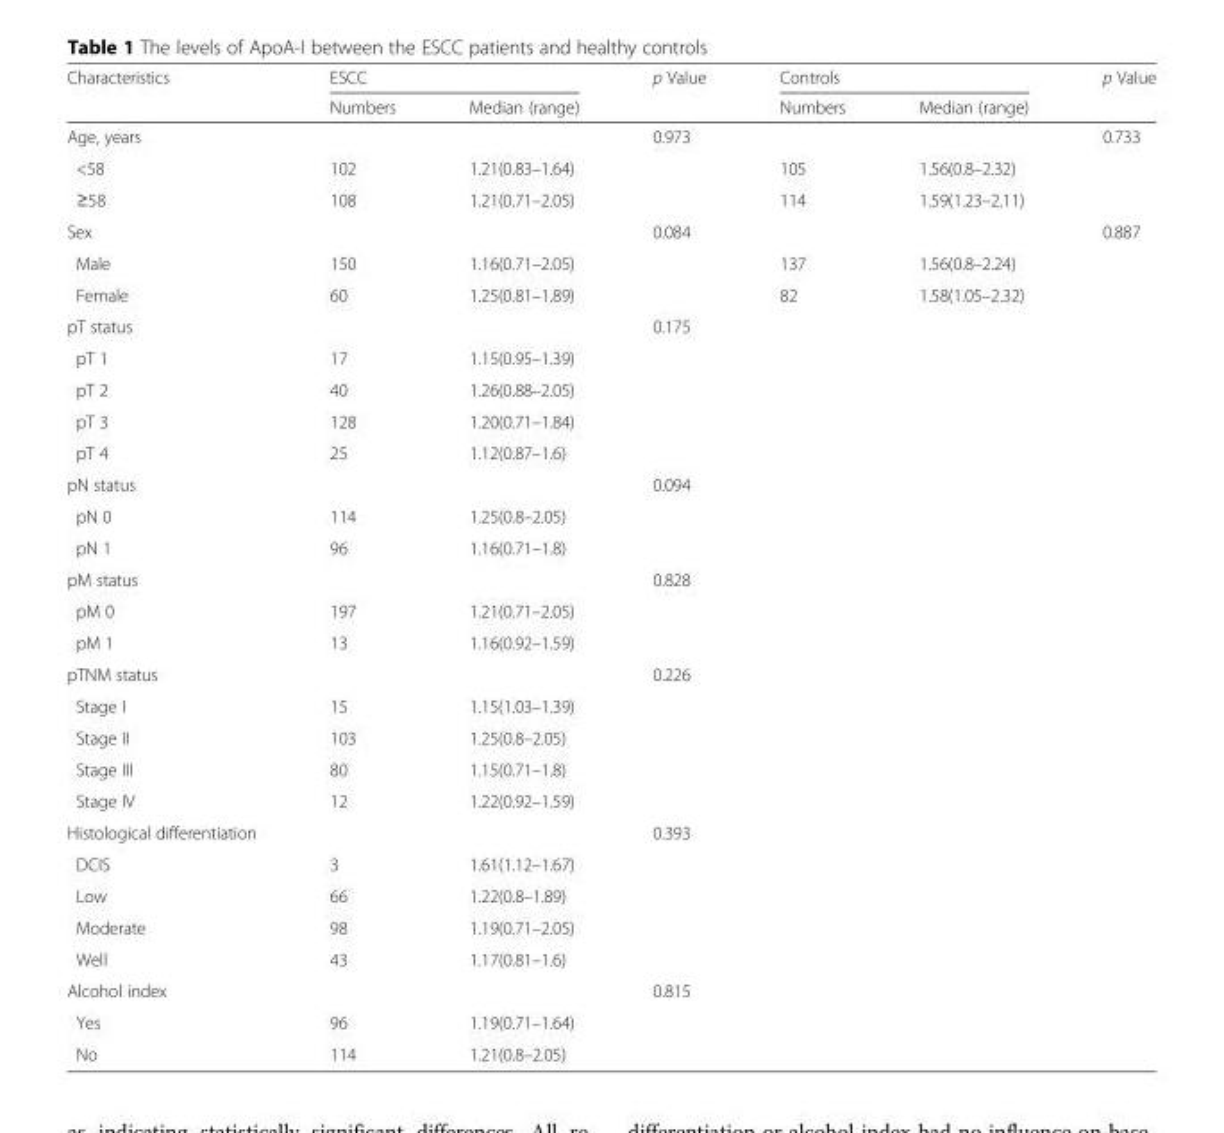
<table><thead><tr><td rowspan="2">Characteristics</td><td colspan="2">ESCC</td><td rowspan="2">p Value</td><td colspan="2">Controls</td><td rowspan="2">p Value</td></tr><tr><td>Numbers</td><td>Median (range)</td><td>Numbers</td><td>Median (range)</td></tr></thead><tbody><tr><td>Age, years</td><td></td><td></td><td>0.973</td><td></td><td></td><td>0.733</td></tr><tr><td>&lt;58</td><td>102</td><td>1.21(0.83–1.64)</td><td></td><td>105</td><td>1.56(0.8–2.32)</td><td></td></tr><tr><td>≥58</td><td>108</td><td>1.21(0.71–2.05)</td><td></td><td>114</td><td>1.59(1.23–2.11)</td><td></td></tr><tr><td>Sex</td><td></td><td></td><td>0.084</td><td></td><td></td><td>0.887</td></tr><tr><td>Male</td><td>150</td><td>1.16(0.71–2.05)</td><td></td><td>137</td><td>1.56(0.8–2.24)</td><td></td></tr><tr><td>Female</td><td>60</td><td>1.25(0.81–1.89)</td><td></td><td>82</td><td>1.58(1.05–2.32)</td><td></td></tr><tr><td>pT status</td><td></td><td></td><td>0.175</td><td></td><td></td><td></td></tr><tr><td>pT 1</td><td>17</td><td>1.15(0.95–1.39)</td><td></td><td></td><td></td><td></td></tr><tr><td>pT 2</td><td>40</td><td>1.26(0.88–2.05)</td><td></td><td></td><td></td><td></td></tr><tr><td>pT 3</td><td>128</td><td>1.20(0.71–1.84)</td><td></td><td></td><td></td><td></td></tr><tr><td>pT 4</td><td>25</td><td>1.12(0.87–1.6)</td><td></td><td></td><td></td><td></td></tr><tr><td>pN status</td><td></td><td></td><td>0.094</td><td></td><td></td><td></td></tr><tr><td>pN 0</td><td>114</td><td>1.25(0.8–2.05)</td><td></td><td></td><td></td><td></td></tr><tr><td>pN 1</td><td>96</td><td>1.16(0.71–1.8)</td><td></td><td></td><td></td><td></td></tr><tr><td>pM status</td><td></td><td></td><td>0.828</td><td></td><td></td><td></td></tr><tr><td>pM 0</td><td>197</td><td>1.21(0.71–2.05)</td><td></td><td></td><td></td><td></td></tr><tr><td>pM 1</td><td>13</td><td>1.16(0.92–1.59)</td><td></td><td></td><td></td><td></td></tr><tr><td>pTNM status</td><td></td><td></td><td>0.226</td><td></td><td></td><td></td></tr><tr><td>Stage I</td><td>15</td><td>1.15(1.03–1.39)</td><td></td><td></td><td></td><td></td></tr><tr><td>Stage II</td><td>103</td><td>1.25(0.8–2.05)</td><td></td><td></td><td></td><td></td></tr><tr><td>Stage III</td><td>80</td><td>1.15(0.71–1.8)</td><td></td><td></td><td></td><td></td></tr><tr><td>Stage IV</td><td>12</td><td>1.22(0.92–1.59)</td><td></td><td></td><td></td><td></td></tr><tr><td>Histological differentiation</td><td></td><td></td><td>0.393</td><td></td><td></td><td></td></tr><tr><td>DCIS</td><td>3</td><td>1.61(1.12–1.67)</td><td></td><td></td><td></td><td></td></tr><tr><td>Low</td><td>66</td><td>1.22(0.8–1.89)</td><td></td><td></td><td></td><td></td></tr><tr><td>Moderate</td><td>98</td><td>1.19(0.71–2.05)</td><td></td><td></td><td></td><td></td></tr><tr><td>Well</td><td>43</td><td>1.17(0.81–1.6)</td><td></td><td></td><td></td><td></td></tr><tr><td>Alcohol index</td><td></td><td></td><td>0.815</td><td></td><td></td><td></td></tr><tr><td>Yes</td><td>96</td><td>1.19(0.71–1.64)</td><td></td><td></td><td></td><td></td></tr><tr><td>No</td><td>114</td><td>1.21(0.8–2.05)</td><td></td><td></td><td></td><td></td></tr></tbody></table>